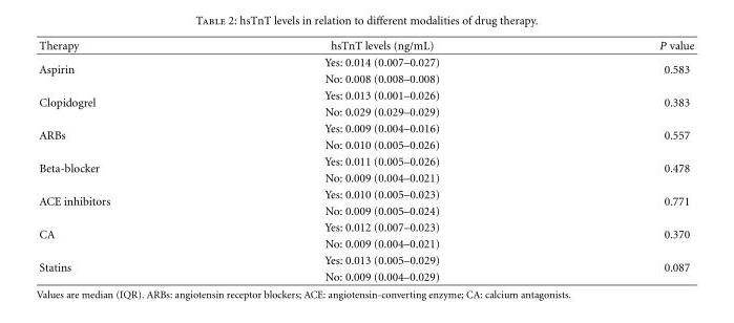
<table><thead><tr><td>Therapy</td><td>hsTnT levels (ng/mL)</td><td>P value</td></tr></thead><tbody><tr><td rowspan="2">Aspirin</td><td>Yes: 0.014 (0.007–0.027)</td><td rowspan="2">0.583</td></tr><tr><td>No: 0.008 (0.008–0.008)</td></tr><tr><td rowspan="2">Clopidogrel</td><td>Yes: 0.013 (0.001–0.026)</td><td rowspan="2">0.383</td></tr><tr><td>No: 0.029 (0.029–0.029)</td></tr><tr><td rowspan="2">ARBs</td><td>Yes: 0.009 (0.004–0.016)</td><td rowspan="2">0.557</td></tr><tr><td>No: 0.010 (0.005–0.026)</td></tr><tr><td rowspan="2">Beta-blocker</td><td>Yes: 0.011 (0.005–0.026)</td><td rowspan="2">0.478</td></tr><tr><td>No: 0.009 (0.004–0.021)</td></tr><tr><td rowspan="2">ACE inhibitors</td><td>Yes: 0.010 (0.005–0.023)</td><td rowspan="2">0.771</td></tr><tr><td>No: 0.009 (0.005–0.024)</td></tr><tr><td rowspan="2">CA</td><td>Yes: 0.012 (0.007–0.023)</td><td rowspan="2">0.370</td></tr><tr><td>No: 0.009 (0.004–0.021)</td></tr><tr><td rowspan="2">Statins</td><td>Yes: 0.013 (0.005–0.029)</td><td rowspan="2">0.087</td></tr><tr><td>No: 0.009 (0.004–0.029)</td></tr></tbody></table>